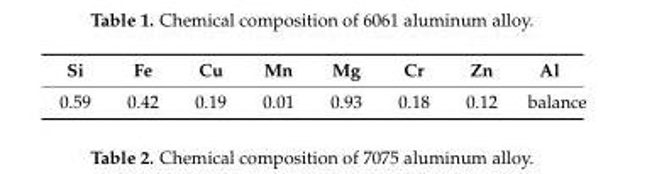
<table><thead><tr><td>Si</td><td>Fe</td><td>Cu</td><td>Mn</td><td>Mg</td><td>Cr</td><td>Zn</td><td>Al</td></tr></thead><tbody><tr><td>0.59</td><td>0.42</td><td>0.19</td><td>0.01</td><td>0.93</td><td>0.18</td><td>0.12</td><td>balance</td></tr></tbody></table>